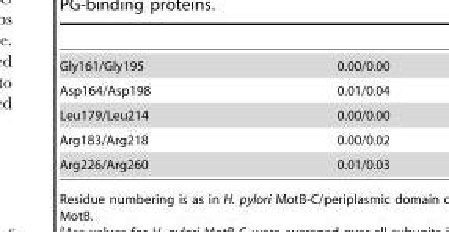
<table><tbody><tr><td>Gly161/Gly195</td><td>0.00/0.00</td></tr><tr><td>Asp164/Asp198</td><td>0.01/0.04</td></tr><tr><td>Leu179/Leu214</td><td>0.00/0.00</td></tr><tr><td>Arg183/Arg218</td><td>0.00/0.02</td></tr><tr><td>Arg226/Arg260</td><td>0.01/0.03</td></tr></tbody></table>